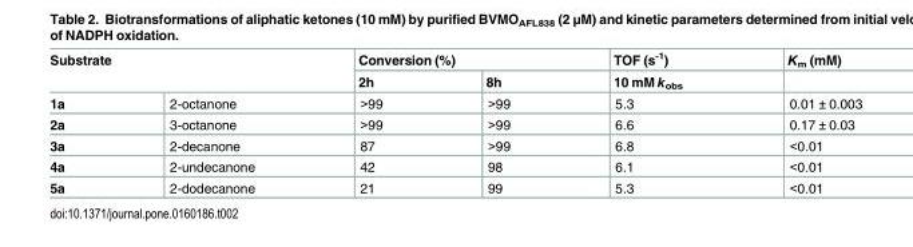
<table><thead><tr><td rowspan="2" colspan="2">Substrate</td><td colspan="2">Conversion (%)</td><td rowspan="3">TOF (s<sup>-1</sup>) 10 mM k<sub>obs</sub> 5.3</td><td rowspan="3">K<sub>m</sub> (mM) 0.01 ± 0.003</td></tr><tr><td rowspan="2">2h &gt;99</td><td rowspan="2">8h &gt;99</td></tr><tr><td>1a</td><td>2-octanone</td></tr></thead><tbody><tr><td>2a</td><td>3-octanone</td><td>&gt;99</td><td>&gt;99</td><td>6.6</td><td>0.17 ± 0.03</td></tr><tr><td>3a</td><td>2-decanone</td><td>87</td><td>&gt;99</td><td>6.8</td><td>&lt;0.01</td></tr><tr><td>4a</td><td>2-undecanone</td><td>42</td><td>98</td><td>6.1</td><td>&lt;0.01</td></tr><tr><td>5a</td><td>2-dodecanone</td><td>21</td><td>99</td><td>5.3</td><td>&lt;0.01</td></tr></tbody></table>